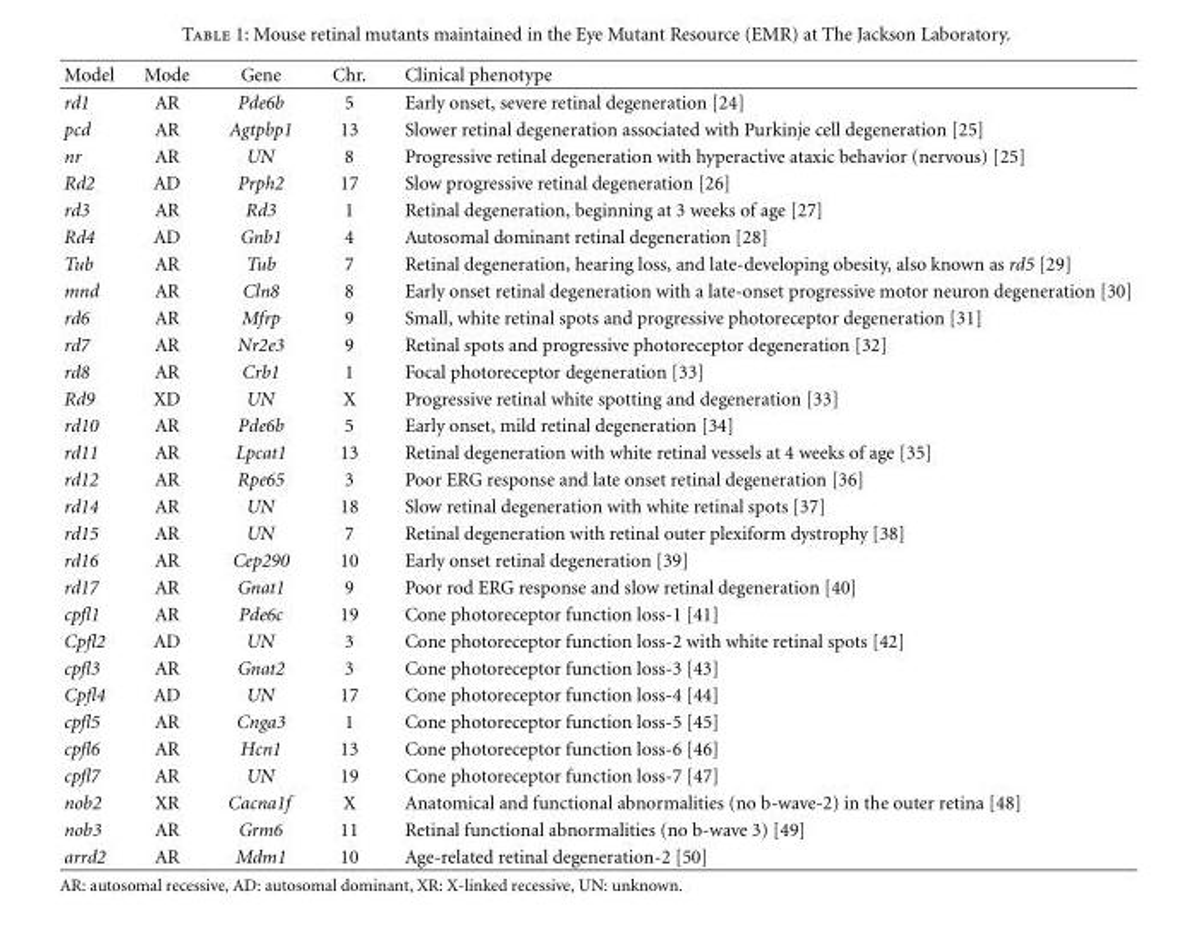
<table><thead><tr><td>Model</td><td>Mode</td><td>Gene</td><td>Chr.</td><td>Clinical phenotype</td></tr></thead><tbody><tr><td>rd1</td><td>AR</td><td>Pde6b</td><td>5</td><td>Early onset, severe retinal degeneration [24]</td></tr><tr><td>pcd</td><td>AR</td><td>Agtpbp1</td><td>13</td><td>Slower retinal degeneration associated with Purkinje cell degeneration [25]</td></tr><tr><td>nr</td><td>AR</td><td>UN</td><td>8</td><td>Progressive retinal degeneration with hyperactive ataxic behavior (nervous) [25]</td></tr><tr><td>Rd2</td><td>AD</td><td>Prph2</td><td>17</td><td>Slow progressive retinal degeneration [26]</td></tr><tr><td>rd3</td><td>AR</td><td>Rd3</td><td>1</td><td>Retinal degeneration, beginning at 3 weeks of age [27]</td></tr><tr><td>Rd4</td><td>AD</td><td>Gnb1</td><td>4</td><td>Autosomal dominant retinal degeneration [28]</td></tr><tr><td>Tub</td><td>AR</td><td>Tub</td><td>7</td><td>Retinal degeneration, hearing loss, and late-developing obesity, also known as rd5 [29]</td></tr><tr><td>mnd</td><td>AR</td><td>Cln8</td><td>8</td><td>Early onset retinal degeneration with a late-onset progressive motor neuron degeneration [30]</td></tr><tr><td>rd6</td><td>AR</td><td>Mfrp</td><td>9</td><td>Small, white retinal spots and progressive photoreceptor degeneration [31]</td></tr><tr><td>rd7</td><td>AR</td><td>Nr2e3</td><td>9</td><td>Retinal spots and progressive photoreceptor degeneration [32]</td></tr><tr><td>rd8</td><td>AR</td><td>Crb1</td><td>1</td><td>Focal photoreceptor degeneration [33]</td></tr><tr><td>Rd9</td><td>XD</td><td>UN</td><td>X</td><td>Progressive retinal white spotting and degeneration [33]</td></tr><tr><td>rd10</td><td>AR</td><td>Pde6b</td><td>5</td><td>Early onset, mild retinal degeneration [34]</td></tr><tr><td>rd11</td><td>AR</td><td>Lpcat1</td><td>13</td><td>Retinal degeneration with white retinal vessels at 4 weeks of age [35]</td></tr><tr><td>rd12</td><td>AR</td><td>Rpe65</td><td>3</td><td>Poor ERG response and late onset retinal degeneration [36]</td></tr><tr><td>rd14</td><td>AR</td><td>UN</td><td>18</td><td>Slow retinal degeneration with white retinal spots [37]</td></tr><tr><td>rd15</td><td>AR</td><td>UN</td><td>7</td><td>Retinal degeneration with retinal outer plexiform dystrophy [38]</td></tr><tr><td>rd16</td><td>AR</td><td>Cep290</td><td>10</td><td>Early onset retinal degeneration [39]</td></tr><tr><td>rd17</td><td>AR</td><td>Gnat1</td><td>9</td><td>Poor rod ERG response and slow retinal degeneration [40]</td></tr><tr><td>cpfl1</td><td>AR</td><td>Pde6c</td><td>19</td><td>Cone photoreceptor function loss-1 [41]</td></tr><tr><td>Cpfl2</td><td>AD</td><td>UN</td><td>3</td><td>Cone photoreceptor function loss-2 with white retinal spots [42]</td></tr><tr><td>cpfl3</td><td>AR</td><td>Gnat2</td><td>3</td><td>Cone photoreceptor function loss-3 [43]</td></tr><tr><td>Cpfl4</td><td>AD</td><td>UN</td><td>17</td><td>Cone photoreceptor function loss-4 [44]</td></tr><tr><td>cpfl5</td><td>AR</td><td>Cnga3</td><td>1</td><td>Cone photoreceptor function loss-5 [45]</td></tr><tr><td>cpfl6</td><td>AR</td><td>Hcn1</td><td>13</td><td>Cone photoreceptor function loss-6 [46]</td></tr><tr><td>cpfl7</td><td>AR</td><td>UN</td><td>19</td><td>Cone photoreceptor function loss-7 [47]</td></tr><tr><td>nob2</td><td>XR</td><td>Cacna1f</td><td>X</td><td>Anatomical and functional abnormalities (no b-wave-2) in the outer retina [48]</td></tr><tr><td>nob3</td><td>AR</td><td>Grm6</td><td>11</td><td>Retinal functional abnormalities (no b-wave 3) [49]</td></tr><tr><td>arrd2</td><td>AR</td><td>Mdm1</td><td>10</td><td>Age-related retinal degeneration-2 [50]</td></tr></tbody></table>